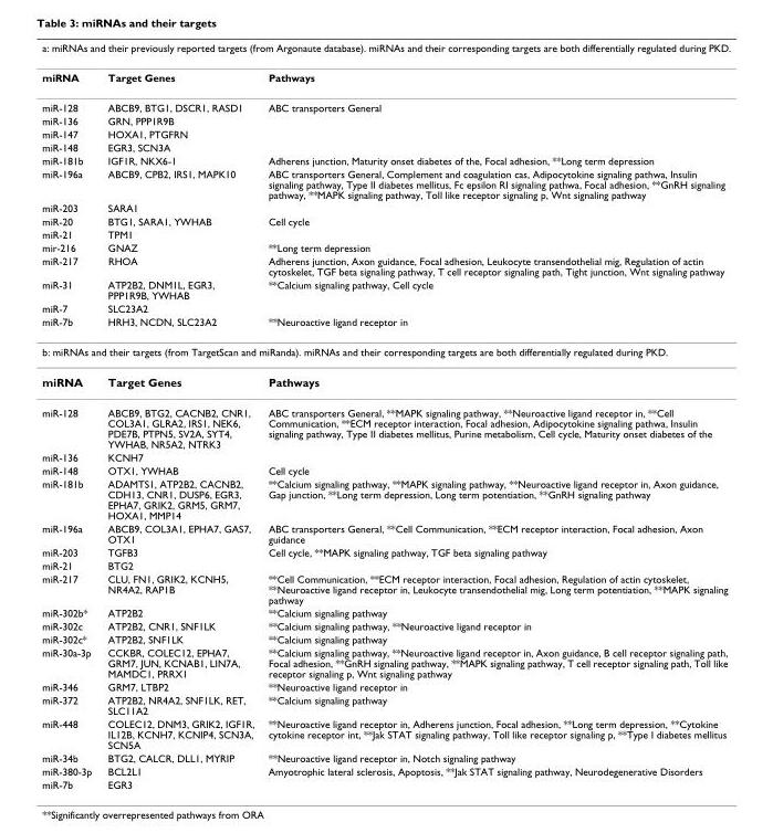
<table><thead><tr><td colspan="3">a: miRNAs and their previously reported targets (from Argonaute database). miRNAs and their corresponding targets are both differentially regulated during PKD.</td></tr><tr><td>miRNA</td><td>Target Genes</td><td>Pathways</td></tr></thead><tbody><tr><td>miR-128</td><td>ABCB9, BTG1, DSCR1, RASD1</td><td>ABC transporters General</td></tr><tr><td>miR-136</td><td>GRN, PPP1R9B</td><td></td></tr><tr><td>miR-147</td><td>HOXA1, PTGFRN</td><td></td></tr><tr><td>miR-148</td><td>EGR3, SCN3A</td><td></td></tr><tr><td>miR-181b</td><td>IGF1R, NKX6-1</td><td>Adherens junction, Maturity onset diabetes of the, Focal adhesion, **Long term depression</td></tr><tr><td>miR-196a</td><td>ABCB9, CPB2, IRS1, MAPK10</td><td>ABC transporters General, Complement and coagulation cas, Adipocytokine signaling pathwa, Insulin signaling pathway, Type II diabetes mellitus, Fc epsilon RI signaling pathwa, Focal adhesion, **GnRH signaling pathway, **MAPK signaling pathway, Toll like receptor signaling p, Wnt signaling pathway</td></tr><tr><td>miR-203</td><td>SARA1</td><td></td></tr><tr><td>miR-20</td><td>BTG1, SARA1, YWHAB</td><td>Cell cycle</td></tr><tr><td>miR-21</td><td>TPM1</td><td></td></tr><tr><td>mir-216</td><td>GNAZ</td><td>**Long term depression</td></tr><tr><td>miR-217</td><td>RHOA</td><td>Adherens junction, Axon guidance, Focal adhesion, Leukocyte transendothelial mig, Regulation of actin cytoskelet, TGF beta signaling pathway, T cell receptor signaling path, Tight junction, Wnt signaling pathway</td></tr><tr><td>miR-31</td><td>ATP2B2, DNM1L, EGR3, PPP1R9B, YWHAB</td><td>**Calcium signaling pathway, Cell cycle</td></tr><tr><td>miR-7</td><td>SLC23A2</td><td></td></tr><tr><td>miR-7b</td><td>HRH3, NCDN, SLC23A2</td><td>**Neuroactive ligand receptor in</td></tr><tr><td colspan="3">b: miRNAs and their targets (from TargetScan and miRanda). miRNAs and their corresponding targets are both differentially regulated during PKD.</td></tr><tr><td>miRNA</td><td>Target Genes</td><td>Pathways</td></tr><tr><td>miR-128</td><td>ABCB9, BTG2, CACNB2, CNR1, COL3A1, GLRA2, IRS1, NEK6, PDE7B, PTPN5, SV2A, SYT4, YWHAB, NR5A2, NTRK3</td><td>ABC transporters General, **MAPK signaling pathway, **Neuroactive ligand receptor in, **Cell Communication, **ECM receptor interaction, Focal adhesion, Adipocytokine signaling pathwa, Insulin signaling pathway, Type II diabetes mellitus, Purine metabolism, Cell cycle, Maturity onset diabetes of the</td></tr><tr><td>miR-136</td><td>KCNH7</td><td></td></tr><tr><td>miR-148</td><td>OTX1, YWHAB</td><td>Cell cycle</td></tr><tr><td>miR-181b</td><td>ADAMTS1, ATP2B2, CACNB2, CDH13, CNR1, DUSP6, EGR3, EPHA7, GRIK2, GRM5, GRM7, HOXA1, MMP14</td><td>**Calcium signaling pathway, **MAPK signaling pathway, **Neuroactive ligand receptor in, Axon guidance, Gap junction, **Long term depression, Long term potentiation, **GnRH signaling pathway</td></tr><tr><td>miR-196a</td><td>ABCB9, COL3A1, EPHA7, GAS7, OTX1</td><td>ABC transporters General, **Cell Communication, **ECM receptor interaction, Focal adhesion, Axon guidance</td></tr><tr><td>miR-203</td><td>TGFB3</td><td>Cell cycle, **MAPK signaling pathway, TGF beta signaling pathway</td></tr><tr><td>miR-21</td><td>BTG2</td><td></td></tr><tr><td>miR-217</td><td>CLU, FN1, GRIK2, KCNH5, NR4A2, RAP1B</td><td>**Cell Communication, **ECM receptor interaction, Focal adhesion, Regulation of actin cytoskelet, **Neuroactive ligand receptor in, Leukocyte transendothelial mig, Long term potentiation, **MAPK signaling pathway</td></tr><tr><td>miR-302b*</td><td>ATP2B2</td><td>**Calcium signaling pathway</td></tr><tr><td>miR-302c</td><td>ATP2B2, CNR1, SNF1LK</td><td>**Calcium signaling pathway, **Neuroactive ligand receptor in</td></tr><tr><td>miR-302c*</td><td>ATP2B2, SNF1LK</td><td>**Calcium signaling pathway</td></tr><tr><td>miR-30a-3p</td><td>CCKBR, COLEC12, EPHA7, GRM7, JUN, KCNAB1, LIN7A, MAMDC1, PRRX1</td><td>**Calcium signaling pathway, **Neuroactive ligand receptor in, Axon guidance, B cell receptor signaling path, Focal adhesion, **GnRH signaling pathway, **MAPK signaling pathway, T cell receptor signaling path, Toll like receptor signaling p, Wnt signaling pathway</td></tr><tr><td>miR-346</td><td>GRM7, LTBP2</td><td>**Neuroactive ligand receptor in</td></tr><tr><td>miR-372</td><td>ATP2B2, NR4A2, SNF1LK, RET, SLC11A2</td><td>**Calcium signaling pathway</td></tr><tr><td>miR-448</td><td>COLEC12, DNM3, GRIK2, IGF1R, IL12B, KCNH7, KCNIP4, SCN3A, SCN5A</td><td>**Neuroactive ligand receptor in, Adherens junction, Focal adhesion, **Long term depression, **Cytokine cytokine receptor int, **Jak STAT signaling pathway, Toll like receptor signaling p, **Type I diabetes mellitus</td></tr><tr><td>miR-34b</td><td>BTG2, CALCR, DLL1, MYRIP</td><td>**Neuroactive ligand receptor in, Notch signaling pathway</td></tr><tr><td>miR-380-3p</td><td>BCL2L1</td><td>Amyotrophic lateral sclerosis, Apoptosis, **Jak STAT signaling pathway, Neurodegenerative Disorders</td></tr><tr><td>miR-7b</td><td>EGR3</td><td></td></tr></tbody></table>